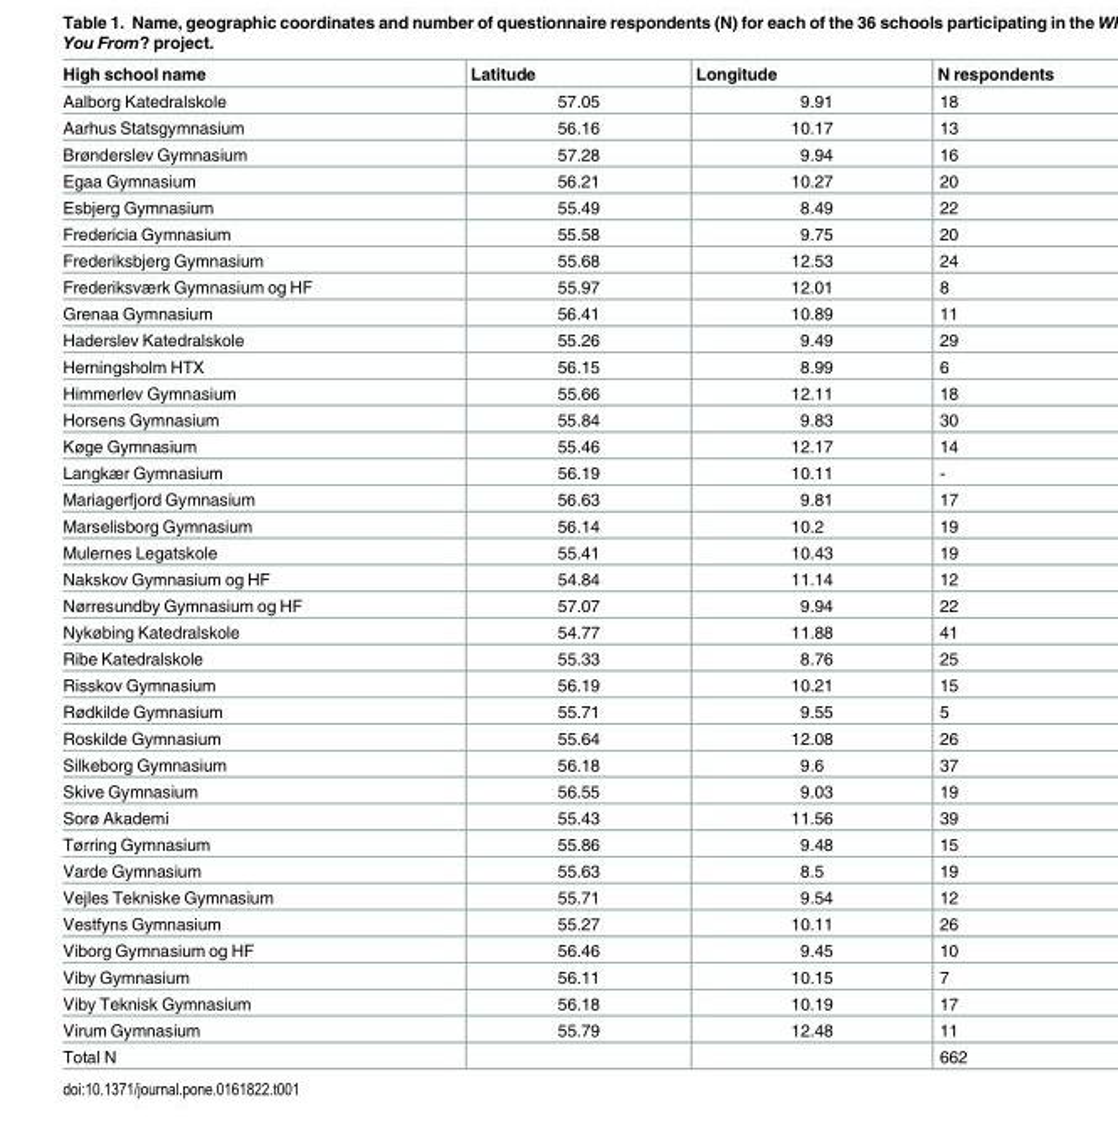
<table><thead><tr><td>High school name</td><td>Latitude</td><td>Longitude</td><td>N respondents</td></tr></thead><tbody><tr><td>Aalborg Katedralskole</td><td>57.05</td><td>9.91</td><td>18</td></tr><tr><td>Aarhus Statsgymnasium</td><td>56.16</td><td>10.17</td><td>13</td></tr><tr><td>Brønderslev Gymnasium</td><td>57.28</td><td>9.94</td><td>16</td></tr><tr><td>Egaa Gymnasium</td><td>56.21</td><td>10.27</td><td>20</td></tr><tr><td>Esbjerg Gymnasium</td><td>55.49</td><td>8.49</td><td>22</td></tr><tr><td>Fredericia Gymnasium</td><td>55.58</td><td>9.75</td><td>20</td></tr><tr><td>Frederiksbjerg Gymnasium</td><td>55.68</td><td>12.53</td><td>24</td></tr><tr><td>Frederiksværk Gymnasium og HF</td><td>55.97</td><td>12.01</td><td>8</td></tr><tr><td>Grenaa Gymnasium</td><td>56.41</td><td>10.89</td><td>11</td></tr><tr><td>Haderslev Katedralskole</td><td>55.26</td><td>9.49</td><td>29</td></tr><tr><td>Herningsholm HTX</td><td>56.15</td><td>8.99</td><td>6</td></tr><tr><td>Himmerlev Gymnasium</td><td>55.66</td><td>12.11</td><td>18</td></tr><tr><td>Horsens Gymnasium</td><td>55.84</td><td>9.83</td><td>30</td></tr><tr><td>Køge Gymnasium</td><td>55.46</td><td>12.17</td><td>14</td></tr><tr><td>Langkær Gymnasium</td><td>56.19</td><td>10.11</td><td>-</td></tr><tr><td>Mariagerfjord Gymnasium</td><td>56.63</td><td>9.81</td><td>17</td></tr><tr><td>Marselisborg Gymnasium</td><td>56.14</td><td>10.2</td><td>19</td></tr><tr><td>Mulernes Legatskole</td><td>55.41</td><td>10.43</td><td>19</td></tr><tr><td>Nakskov Gymnasium og HF</td><td>54.84</td><td>11.14</td><td>12</td></tr><tr><td>Nørresundby Gymnasium og HF</td><td>57.07</td><td>9.94</td><td>22</td></tr><tr><td>Nykøbing Katedralskole</td><td>54.77</td><td>11.88</td><td>41</td></tr><tr><td>Ribe Katedralskole</td><td>55.33</td><td>8.76</td><td>25</td></tr><tr><td>Risskov Gymnasium</td><td>56.19</td><td>10.21</td><td>15</td></tr><tr><td>Rødkilde Gymnasium</td><td>55.71</td><td>9.55</td><td>5</td></tr><tr><td>Roskilde Gymnasium</td><td>55.64</td><td>12.08</td><td>26</td></tr><tr><td>Silkeborg Gymnasium</td><td>56.18</td><td>9.6</td><td>37</td></tr><tr><td>Skive Gymnasium</td><td>56.55</td><td>9.03</td><td>19</td></tr><tr><td>Sorø Akademi</td><td>55.43</td><td>11.56</td><td>39</td></tr><tr><td>Tørring Gymnasium</td><td>55.86</td><td>9.48</td><td>15</td></tr><tr><td>Varde Gymnasium</td><td>55.63</td><td>8.5</td><td>19</td></tr><tr><td>Vejles Tekniske Gymnasium</td><td>55.71</td><td>9.54</td><td>12</td></tr><tr><td>Vestfyns Gymnasium</td><td>55.27</td><td>10.11</td><td>26</td></tr><tr><td>Viborg Gymnasium og HF</td><td>56.46</td><td>9.45</td><td>10</td></tr><tr><td>Viby Gymnasium</td><td>56.11</td><td>10.15</td><td>7</td></tr><tr><td>Viby Teknisk Gymnasium</td><td>56.18</td><td>10.19</td><td>17</td></tr><tr><td>Virum Gymnasium</td><td>55.79</td><td>12.48</td><td>11</td></tr><tr><td>Total N</td><td></td><td></td><td>662</td></tr></tbody></table>